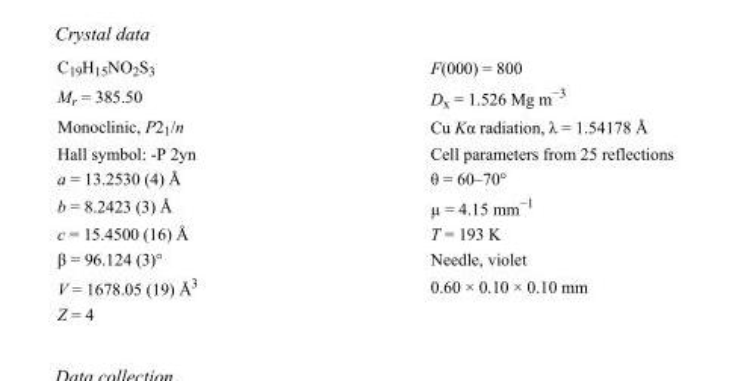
<table><tbody><tr><td>C<sub>19</sub>H<sub>15</sub>NO<sub>2</sub>S<sub>3</sub></td><td>F(000) = 800</td></tr><tr><td>M<sub>r</sub> = 385.50</td><td>D<sub>x</sub> = 1.526 Mg m<sup>−3</sup></td></tr><tr><td>Monoclinic, P2<sub>1</sub>/n</td><td>Cu Kα radiation, λ = 1.54178 Å</td></tr><tr><td>Hall symbol: -P 2yn</td><td>Cell parameters from 25 reflections</td></tr><tr><td>a = 13.2530 (4) Å</td><td>θ = 60–70°</td></tr><tr><td>b = 8.2423 (3) Å</td><td>µ = 4.15 mm<sup>−1</sup></td></tr><tr><td>c = 15.4500 (16) Å</td><td>T = 193 K</td></tr><tr><td>β = 96.124 (3)°</td><td>Needle, violet</td></tr><tr><td>V = 1678.05 (19) Å<sup>3</sup></td><td>0.60 × 0.10 × 0.10 mm</td></tr><tr><td>Z = 4</td><td></td></tr></tbody></table>